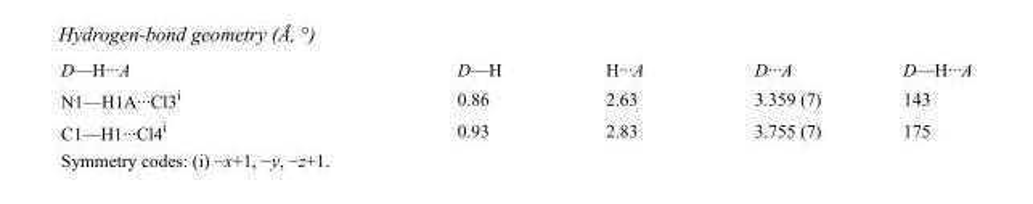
<table><tbody><tr><td>D—H···A</td><td>D—H</td><td>H···A</td><td>D···A</td><td>D—H···A</td></tr><tr><td>N1—H1A···Cl3<sup>i</sup></td><td>0.86</td><td>2.63</td><td>3.359 (7)</td><td>143</td></tr><tr><td>C1—H1···Cl4<sup>i</sup></td><td>0.93</td><td>2.83</td><td>3.755 (7)</td><td>175</td></tr></tbody></table>